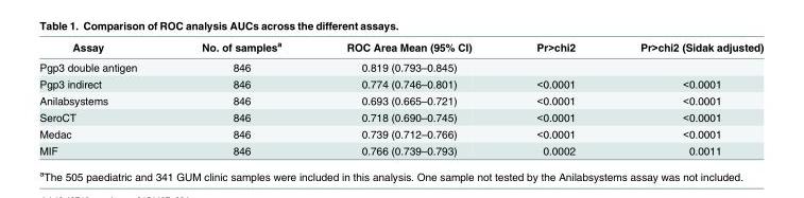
<table><thead><tr><td>Assay</td><td>No. of samples<sup>a</sup></td><td>ROC Area Mean (95% CI)</td><td>Pr&gt;chi2</td><td>Pr&gt;chi2 (Sidak adjusted)</td></tr></thead><tbody><tr><td>Pgp3 double antigen</td><td>846</td><td>0.819 (0.793–0.845)</td><td></td><td></td></tr><tr><td>Pgp3 indirect</td><td>846</td><td>0.774 (0.746–0.801)</td><td>&lt;0.0001</td><td>&lt;0.0001</td></tr><tr><td>Anilabsystems</td><td>846</td><td>0.693 (0.665–0.721)</td><td>&lt;0.0001</td><td>&lt;0.0001</td></tr><tr><td>SeroCT</td><td>846</td><td>0.718 (0.690–0.745)</td><td>&lt;0.0001</td><td>&lt;0.0001</td></tr><tr><td>Medac</td><td>846</td><td>0.739 (0.712–0.766)</td><td>&lt;0.0001</td><td>&lt;0.0001</td></tr><tr><td>MIF</td><td>846</td><td>0.766 (0.739–0.793)</td><td>0.0002</td><td>0.0011</td></tr></tbody></table>